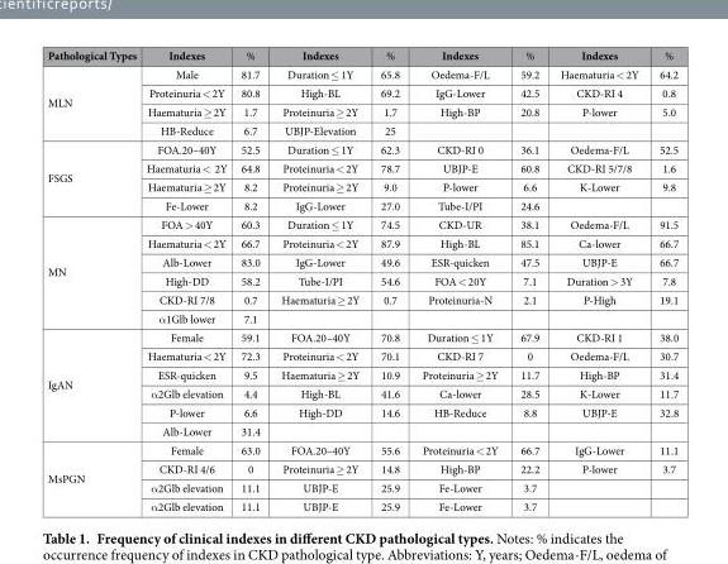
<table><thead><tr><td>Pathological Types</td><td>Indexes</td><td>%</td><td>Indexes</td><td>%</td><td>Indexes</td><td>%</td><td>Indexes</td><td>%</td></tr></thead><tbody><tr><td rowspan="4">MLN</td><td>Male</td><td>81.7</td><td>Duration ≤ 1Y</td><td>65.8</td><td>Oedema-F/L</td><td>59.2</td><td>Haematuria &lt; 2Y</td><td>64.2</td></tr><tr><td>Proteinuria &lt; 2Y</td><td>80.8</td><td>High-BL</td><td>69.2</td><td>IgG-Lower</td><td>42.5</td><td>CKD-RI 4</td><td>0.8</td></tr><tr><td>Haematuria ≥ 2Y</td><td>1.7</td><td>Proteinuria ≥ 2Y</td><td>1.7</td><td>High-BP</td><td>20.8</td><td>P-lower</td><td>5.0</td></tr><tr><td>HB-Reduce</td><td>6.7</td><td>UBJP-Elevation</td><td>25</td><td></td><td></td><td></td><td></td></tr><tr><td rowspan="4">FSGS</td><td>FOA.20–40Y</td><td>52.5</td><td>Duration ≤ 1Y</td><td>62.3</td><td>CKD-RI 0</td><td>36.1</td><td>Oedema-F/L</td><td>52.5</td></tr><tr><td>Haematuria &lt; 2Y</td><td>64.8</td><td>Proteinuria &lt; 2Y</td><td>78.7</td><td>UBJP-E</td><td>60.8</td><td>CKD-RI 5/7/8</td><td>1.6</td></tr><tr><td>Haematuria ≥ 2Y</td><td>8.2</td><td>Proteinuria ≥ 2Y</td><td>9.0</td><td>P-lower</td><td>6.6</td><td>K-Lower</td><td>9.8</td></tr><tr><td>Fe-Lower</td><td>8.2</td><td>IgG-Lower</td><td>27.0</td><td>Tube-I/PI</td><td>24.6</td><td></td><td></td></tr><tr><td rowspan="6">MN</td><td>FOA &gt; 40Y</td><td>60.3</td><td>Duration ≤ 1Y</td><td>74.5</td><td>CKD-UR</td><td>38.1</td><td>Oedema-F/L</td><td>91.5</td></tr><tr><td>Haematuria &lt; 2Y</td><td>66.7</td><td>Proteinuria &lt; 2Y</td><td>87.9</td><td>High-BL</td><td>85.1</td><td>Ca-lower</td><td>66.7</td></tr><tr><td>Alb-Lower</td><td>83.0</td><td>IgG-Lower</td><td>49.6</td><td>ESR-quicken</td><td>47.5</td><td>UBJP-E</td><td>66.7</td></tr><tr><td>High-DD</td><td>58.2</td><td>Tube-I/PI</td><td>54.6</td><td>FOA &lt; 20Y</td><td>7.1</td><td>Duration &gt; 3Y</td><td>7.8</td></tr><tr><td>CKD-RI 7/8</td><td>0.7</td><td>Haematuria ≥ 2Y</td><td>0.7</td><td>Proteinuria-N</td><td>2.1</td><td>P-High</td><td>19.1</td></tr><tr><td>α 1Glb lower</td><td>7.1</td><td></td><td></td><td></td><td></td><td></td><td></td></tr><tr><td rowspan="6">IgAN</td><td>Female</td><td>59.1</td><td>FOA.20–40Y</td><td>70.8</td><td>Duration ≤ 1Y</td><td>67.9</td><td>CKD-RI 1</td><td>38.0</td></tr><tr><td>Haematuria &lt; 2Y</td><td>72.3</td><td>Proteinuria &lt; 2Y</td><td>70.1</td><td>CKD-RI 7</td><td>0</td><td>Oedema-F/L</td><td>30.7</td></tr><tr><td>ESR-quicken</td><td>9.5</td><td>Haematuria ≥ 2Y</td><td>10.9</td><td>Proteinuria ≥ 2Y</td><td>11.7</td><td>High-BP</td><td>31.4</td></tr><tr><td>α 2Glb elevation</td><td>4.4</td><td>High-BL</td><td>41.6</td><td>Ca-lower</td><td>28.5</td><td>K-Lower</td><td>11.7</td></tr><tr><td>P-lower</td><td>6.6</td><td>High-DD</td><td>14.6</td><td>HB-Reduce</td><td>8.8</td><td>UBJP-E</td><td>32.8</td></tr><tr><td>Alb-Lower</td><td>31.4</td><td></td><td></td><td></td><td></td><td></td><td></td></tr><tr><td rowspan="4">MsPGN</td><td>Female</td><td>63.0</td><td>FOA.20–40Y</td><td>55.6</td><td>Proteinuria &lt; 2Y</td><td>66.7</td><td>IgG-Lower</td><td>11.1</td></tr><tr><td>CKD-RI 4/6</td><td>0</td><td>Proteinuria ≥ 2Y</td><td>14.8</td><td>High-BP</td><td>22.2</td><td>P-lower</td><td>3.7</td></tr><tr><td>α 2Glb elevation</td><td>11.1</td><td>UBJP-E</td><td>25.9</td><td>Fe-Lower</td><td>3.7</td><td></td><td></td></tr><tr><td>α 2Glb elevation</td><td>11.1</td><td>UBJP-E</td><td>25.9</td><td>Fe-Lower</td><td>3.7</td><td></td><td></td></tr></tbody></table>